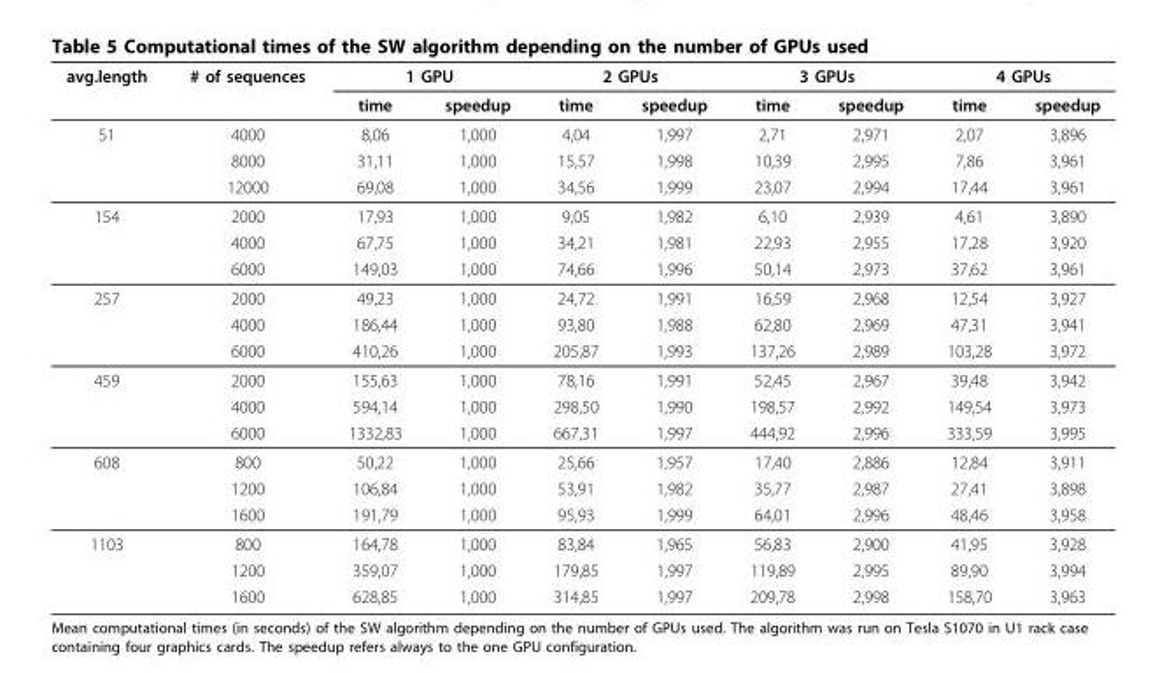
<table><thead><tr><td rowspan="2">avg.length</td><td rowspan="2"># of sequences</td><td colspan="2">1 GPU</td><td colspan="2">2 GPUs</td><td colspan="2">3 GPUs</td><td colspan="2">4 GPUs</td></tr><tr><td>time</td><td>speedup</td><td>time</td><td>speedup</td><td>time</td><td>speedup</td><td>time</td><td>speedup</td></tr></thead><tbody><tr><td rowspan="3">51</td><td>4000</td><td>8,06</td><td>1,000</td><td>4,04</td><td>1,997</td><td>2,71</td><td>2,971</td><td>2,07</td><td>3,896</td></tr><tr><td>8000</td><td>31,11</td><td>1,000</td><td>15,57</td><td>1,998</td><td>10,39</td><td>2,995</td><td>7,86</td><td>3,961</td></tr><tr><td>12000</td><td>69,08</td><td>1,000</td><td>34,56</td><td>1,999</td><td>23,07</td><td>2,994</td><td>17,44</td><td>3,961</td></tr><tr><td rowspan="3">154</td><td>2000</td><td>17,93</td><td>1,000</td><td>9,05</td><td>1,982</td><td>6,10</td><td>2,939</td><td>4,61</td><td>3,890</td></tr><tr><td>4000</td><td>67,75</td><td>1,000</td><td>34,21</td><td>1,981</td><td>22,93</td><td>2,955</td><td>17,28</td><td>3,920</td></tr><tr><td>6000</td><td>149,03</td><td>1,000</td><td>74,66</td><td>1,996</td><td>50,14</td><td>2,973</td><td>37,62</td><td>3,961</td></tr><tr><td rowspan="3">257</td><td>2000</td><td>49,23</td><td>1,000</td><td>24,72</td><td>1,991</td><td>16,59</td><td>2,968</td><td>12,54</td><td>3,927</td></tr><tr><td>4000</td><td>186,44</td><td>1,000</td><td>93,80</td><td>1,988</td><td>62,80</td><td>2,969</td><td>47,31</td><td>3,941</td></tr><tr><td>6000</td><td>410,26</td><td>1,000</td><td>205,87</td><td>1,993</td><td>137,26</td><td>2,989</td><td>103,28</td><td>3,972</td></tr><tr><td rowspan="3">459</td><td>2000</td><td>155,63</td><td>1,000</td><td>78,16</td><td>1,991</td><td>52,45</td><td>2,967</td><td>39,48</td><td>3,942</td></tr><tr><td>4000</td><td>594,14</td><td>1,000</td><td>298,50</td><td>1,990</td><td>198,57</td><td>2,992</td><td>149,54</td><td>3,973</td></tr><tr><td>6000</td><td>1332,83</td><td>1,000</td><td>667,31</td><td>1,997</td><td>444,92</td><td>2,996</td><td>333,59</td><td>3,995</td></tr><tr><td rowspan="3">608</td><td>800</td><td>50,22</td><td>1,000</td><td>25,66</td><td>1,957</td><td>17,40</td><td>2,886</td><td>12,84</td><td>3,911</td></tr><tr><td>1200</td><td>106,84</td><td>1,000</td><td>53,91</td><td>1,982</td><td>35,77</td><td>2,987</td><td>27,41</td><td>3,898</td></tr><tr><td>1600</td><td>191,79</td><td>1,000</td><td>95,93</td><td>1,999</td><td>64,01</td><td>2,996</td><td>48,46</td><td>3,958</td></tr><tr><td rowspan="3">1103</td><td>800</td><td>164,78</td><td>1,000</td><td>83,84</td><td>1,965</td><td>56,83</td><td>2,900</td><td>41,95</td><td>3,928</td></tr><tr><td>1200</td><td>359,07</td><td>1,000</td><td>179,85</td><td>1,997</td><td>119,89</td><td>2,995</td><td>89,90</td><td>3,994</td></tr><tr><td>1600</td><td>628,85</td><td>1,000</td><td>314,85</td><td>1,997</td><td>209,78</td><td>2,998</td><td>158,70</td><td>3,963</td></tr></tbody></table>